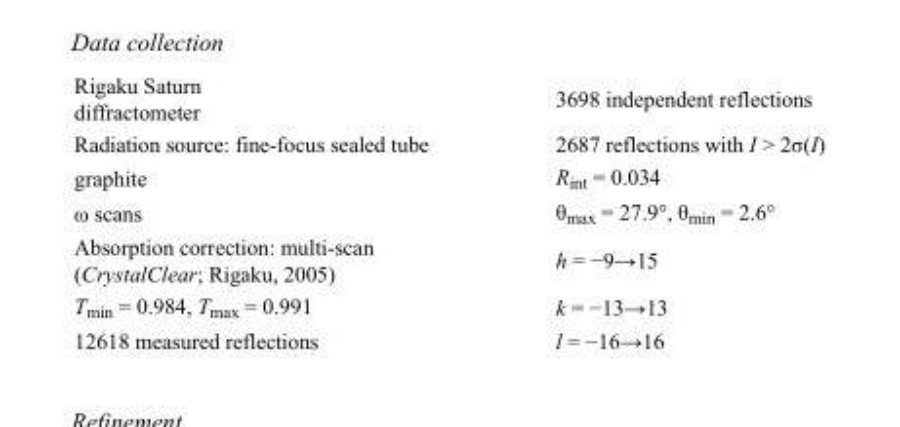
<table><tbody><tr><td>Rigaku Saturn diffractometer</td><td>3698 independent reflections</td></tr><tr><td>Radiation source: fine-focus sealed tube</td><td>2687 reflections with I &gt; 2σ(I)</td></tr><tr><td>graphite</td><td>R<sub>int</sub> = 0.034</td></tr><tr><td>ω scans</td><td>θ<sub>max</sub> = 27.9°, θ<sub>min</sub> = 2.6°</td></tr><tr><td>Absorption correction: multi-scan (CrystalClear; Rigaku, 2005)</td><td>h = −9→15</td></tr><tr><td>T<sub>min</sub> = 0.984, T<sub>max</sub> = 0.991</td><td>k = −13→13</td></tr><tr><td>12618 measured reflections</td><td>l = −16→16</td></tr></tbody></table>